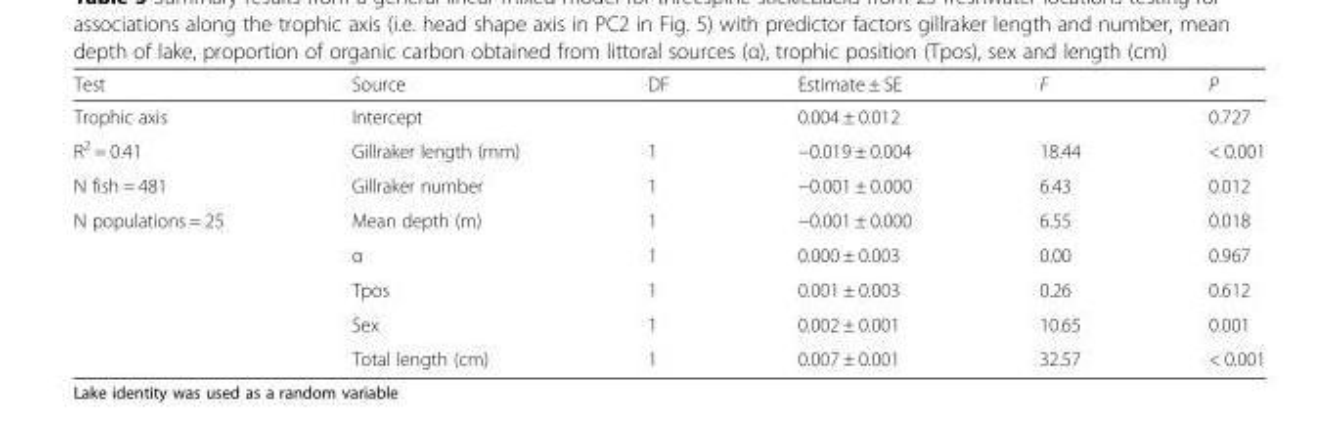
<table><thead><tr><td>Test</td><td>Source</td><td>DF</td><td>Estimate ± SE</td><td>F</td><td>P</td></tr></thead><tbody><tr><td>Trophic axis</td><td>Intercept</td><td></td><td>0.004 ± 0.012</td><td></td><td>0.727</td></tr><tr><td>R<sup>2</sup> = 0.41</td><td>Gillraker length (mm)</td><td>1</td><td>−0.019 ± 0.004</td><td>18.44</td><td>&lt; 0.001</td></tr><tr><td>N fish = 481</td><td>Gillraker number</td><td>1</td><td>−0.001 ± 0.000</td><td>6.43</td><td>0.012</td></tr><tr><td rowspan="5">N populations = 25</td><td>Mean depth (m)</td><td>1</td><td>−0.001 ± 0.000</td><td>6.55</td><td>0.018</td></tr><tr><td>α</td><td>1</td><td>0.000 ± 0.003</td><td>0.00</td><td>0.967</td></tr><tr><td>Tpos</td><td>1</td><td>0.001 ± 0.003</td><td>0.26</td><td>0.612</td></tr><tr><td>Sex</td><td>1</td><td>0.002 ± 0.001</td><td>10.65</td><td>0.001</td></tr><tr><td>Total length (cm)</td><td>1</td><td>0.007 ± 0.001</td><td>32.57</td><td>&lt; 0.001</td></tr></tbody></table>